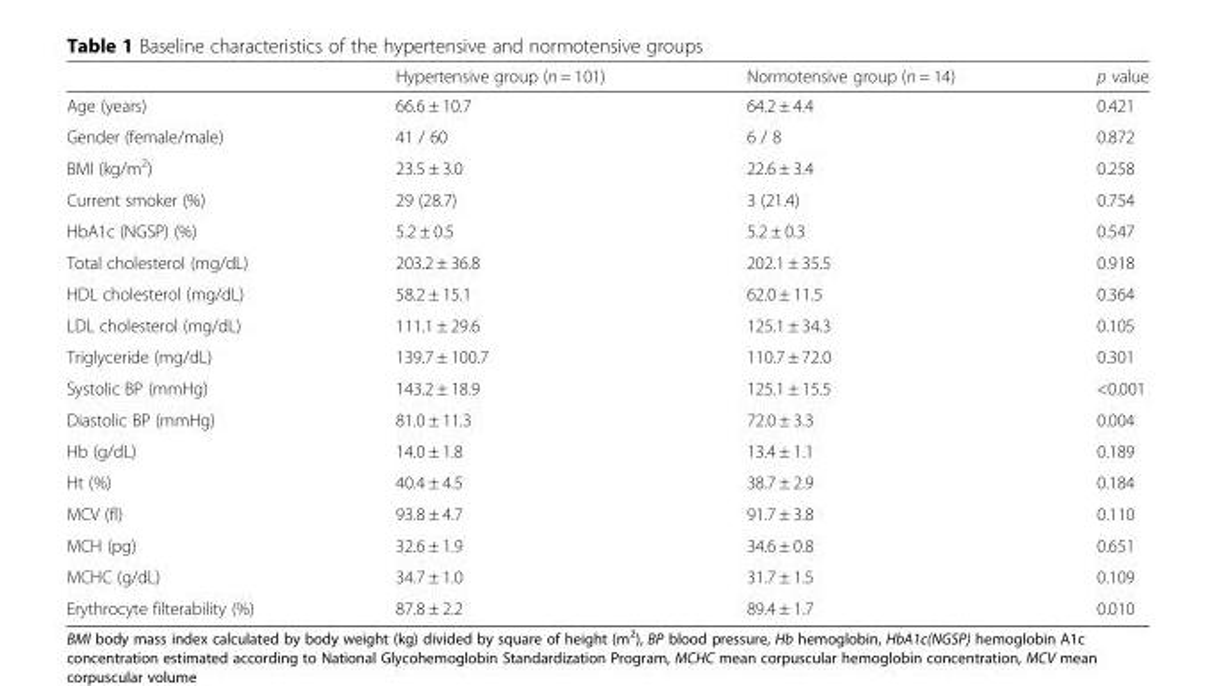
<table><thead><tr><td></td><td>Hypertensive group (n = 101)</td><td>Normotensive group (n = 14)</td><td>p value</td></tr></thead><tbody><tr><td>Age (years)</td><td>66.6 ± 10.7</td><td>64.2 ± 4.4</td><td>0.421</td></tr><tr><td>Gender (female/male)</td><td>41 / 60</td><td>6 / 8</td><td>0.872</td></tr><tr><td>BMI (kg/m<sup>2</sup>)</td><td>23.5 ± 3.0</td><td>22.6 ± 3.4</td><td>0.258</td></tr><tr><td>Current smoker (%)</td><td>29 (28.7)</td><td>3 (21.4)</td><td>0.754</td></tr><tr><td>HbA1c (NGSP) (%)</td><td>5.2 ± 0.5</td><td>5.2 ± 0.3</td><td>0.547</td></tr><tr><td>Total cholesterol (mg/dL)</td><td>203.2 ± 36.8</td><td>202.1 ± 35.5</td><td>0.918</td></tr><tr><td>HDL cholesterol (mg/dL)</td><td>58.2 ± 15.1</td><td>62.0 ± 11.5</td><td>0.364</td></tr><tr><td>LDL cholesterol (mg/dL)</td><td>111.1 ± 29.6</td><td>125.1 ± 34.3</td><td>0.105</td></tr><tr><td>Triglyceride (mg/dL)</td><td>139.7 ± 100.7</td><td>110.7 ± 72.0</td><td>0.301</td></tr><tr><td>Systolic BP (mmHg)</td><td>143.2 ± 18.9</td><td>125.1 ± 15.5</td><td>&lt;0.001</td></tr><tr><td>Diastolic BP (mmHg)</td><td>81.0 ± 11.3</td><td>72.0 ± 3.3</td><td>0.004</td></tr><tr><td>Hb (g/dL)</td><td>14.0 ± 1.8</td><td>13.4 ± 1.1</td><td>0.189</td></tr><tr><td>Ht (%)</td><td>40.4 ± 4.5</td><td>38.7 ± 2.9</td><td>0.184</td></tr><tr><td>MCV (fl)</td><td>93.8 ± 4.7</td><td>91.7 ± 3.8</td><td>0.110</td></tr><tr><td>MCH (pg)</td><td>32.6 ± 1.9</td><td>34.6 ± 0.8</td><td>0.651</td></tr><tr><td>MCHC (g/dL)</td><td>34.7 ± 1.0</td><td>31.7 ± 1.5</td><td>0.109</td></tr><tr><td>Erythrocyte filterability (%)</td><td>87.8 ± 2.2</td><td>89.4 ± 1.7</td><td>0.010</td></tr></tbody></table>